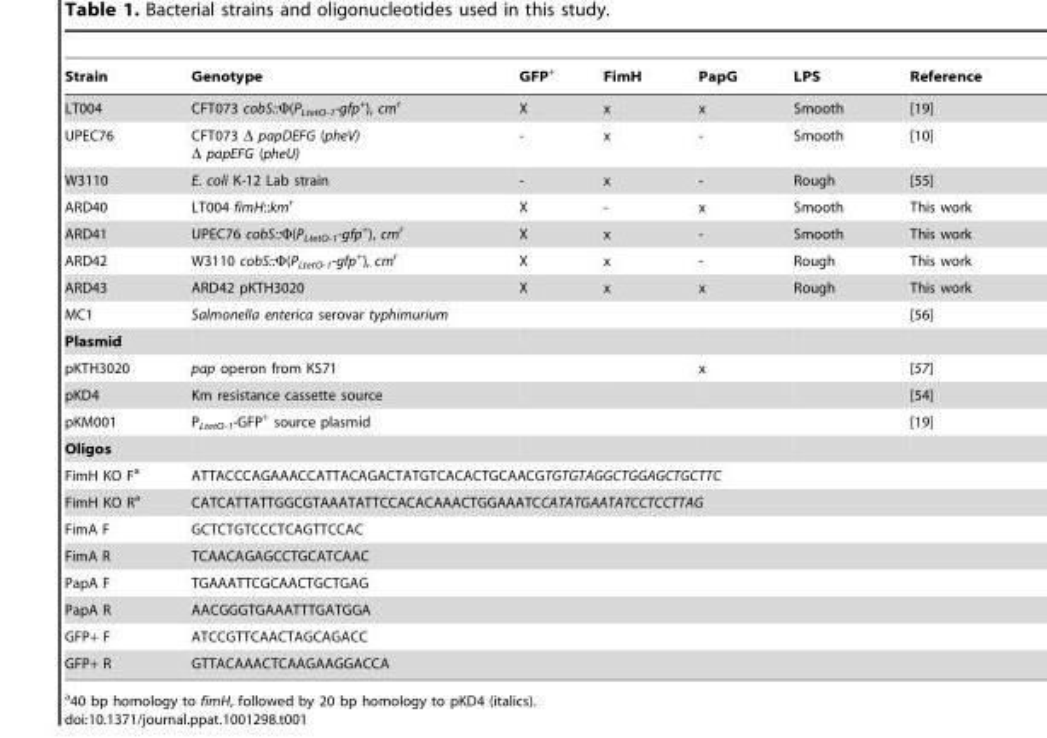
<table><thead><tr><td>Strain</td><td>Genotype</td><td>GFP<sup>+</sup></td><td>FimH</td><td>PapG</td><td>LPS</td><td>Reference</td></tr></thead><tbody><tr><td>LT004</td><td>CFT073 cobS::Φ(P<sub>LtetO-1</sub>-gfp<sup>+</sup>), cm<sup>r</sup></td><td>X</td><td>x</td><td>x</td><td>Smooth</td><td>[19]</td></tr><tr><td>UPEC76</td><td>CFT073 Δ papDEFG (pheV) Δ papEFG (pheU)</td><td>-</td><td>x</td><td>-</td><td>Smooth</td><td>[10]</td></tr><tr><td>W3110</td><td>E. coli K-12 Lab strain</td><td>-</td><td>x</td><td>-</td><td>Rough</td><td>[55]</td></tr><tr><td>ARD40</td><td>LT004 fimH::km<sup>r</sup></td><td>X</td><td>-</td><td>x</td><td>Smooth</td><td>This work</td></tr><tr><td>ARD41</td><td>UPEC76 cobS::Φ(P<sub>LtetO-1</sub>-gfp<sup>+</sup>), cm<sup>r</sup></td><td>X</td><td>x</td><td>-</td><td>Smooth</td><td>This work</td></tr><tr><td>ARD42</td><td>W3110 cobS::Φ(P<sub>LtetO-1</sub>-gfp<sup>+</sup>), cm<sup>r</sup></td><td>X</td><td>x</td><td>-</td><td>Rough</td><td>This work</td></tr><tr><td>ARD43</td><td>ARD42 pKTH3020</td><td>X</td><td>x</td><td>x</td><td>Rough</td><td>This work</td></tr><tr><td>MC1</td><td>Salmonella enterica serovar typhimurium</td><td></td><td></td><td></td><td></td><td>[56]</td></tr><tr><td colspan="7">Plasmid</td></tr><tr><td>pKTH3020</td><td>pap operon from KS71</td><td></td><td></td><td>x</td><td></td><td>[57]</td></tr><tr><td>pKD4</td><td>Km resistance cassette source</td><td></td><td></td><td></td><td></td><td>[54]</td></tr><tr><td>pKM001</td><td>P<sub>LtetO-1</sub>-GFP<sup>+</sup> source plasmid</td><td></td><td></td><td></td><td></td><td>[19]</td></tr><tr><td colspan="7">Oligos</td></tr><tr><td>FimH KO F<sup>a</sup></td><td colspan="6">ATTACCCAGAAACCATTACAGACTATGTCACACTGCAACGTGTGTAGGCTGGAGCTGCTTC</td></tr><tr><td>FimH KO R<sup>a</sup></td><td colspan="6">CATCATTATTGGCGTAAATATTCCACACAAACTGGAAATCCATATGAATATCCTCCTTAG</td></tr><tr><td>FimA F</td><td colspan="6">GCTCTGTCCCTCAGTTCCAC</td></tr><tr><td>FimA R</td><td colspan="6">TCAACAGAGCCTGCATCAAC</td></tr><tr><td>PapA F</td><td colspan="6">TGAAATTCGCAACTGCTGAG</td></tr><tr><td>PapA R</td><td colspan="6">AACGGGTGAAATTTGATGGA</td></tr><tr><td>GFP+ F</td><td colspan="6">ATCCGTTCAACTAGCAGACC</td></tr><tr><td>GFP+ R</td><td colspan="6">GTTACAAACTCAAGAAGGACCA</td></tr></tbody></table>